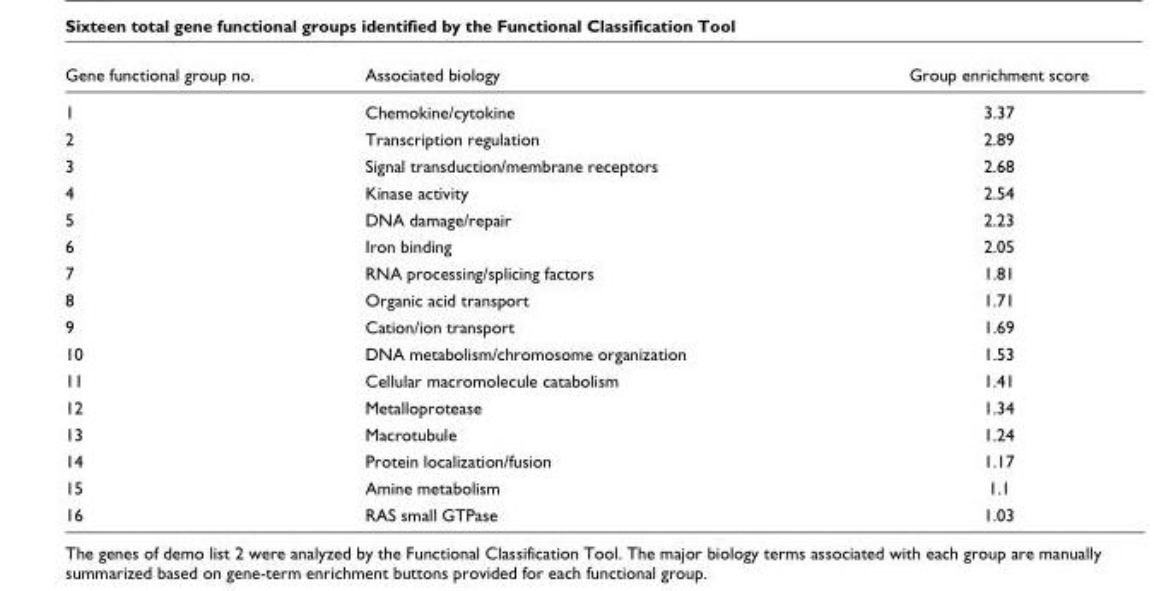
<table><thead><tr><td>Gene functional group no.</td><td>Associated biology</td><td>Group enrichment score</td></tr></thead><tbody><tr><td>1</td><td>Chemokine/cytokine</td><td>3.37</td></tr><tr><td>2</td><td>Transcription regulation</td><td>2.89</td></tr><tr><td>3</td><td>Signal transduction/membrane receptors</td><td>2.68</td></tr><tr><td>4</td><td>Kinase activity</td><td>2.54</td></tr><tr><td>5</td><td>DNA damage/repair</td><td>2.23</td></tr><tr><td>6</td><td>Iron binding</td><td>2.05</td></tr><tr><td>7</td><td>RNA processing/splicing factors</td><td>1.81</td></tr><tr><td>8</td><td>Organic acid transport</td><td>1.71</td></tr><tr><td>9</td><td>Cation/ion transport</td><td>1.69</td></tr><tr><td>10</td><td>DNA metabolism/chromosome organization</td><td>1.53</td></tr><tr><td>11</td><td>Cellular macromolecule catabolism</td><td>1.41</td></tr><tr><td>12</td><td>Metalloprotease</td><td>1.34</td></tr><tr><td>13</td><td>Macrotubule</td><td>1.24</td></tr><tr><td>14</td><td>Protein localization/fusion</td><td>1.17</td></tr><tr><td>15</td><td>Amine metabolism</td><td>1.1</td></tr><tr><td>16</td><td>RAS small GTPase</td><td>1.03</td></tr></tbody></table>